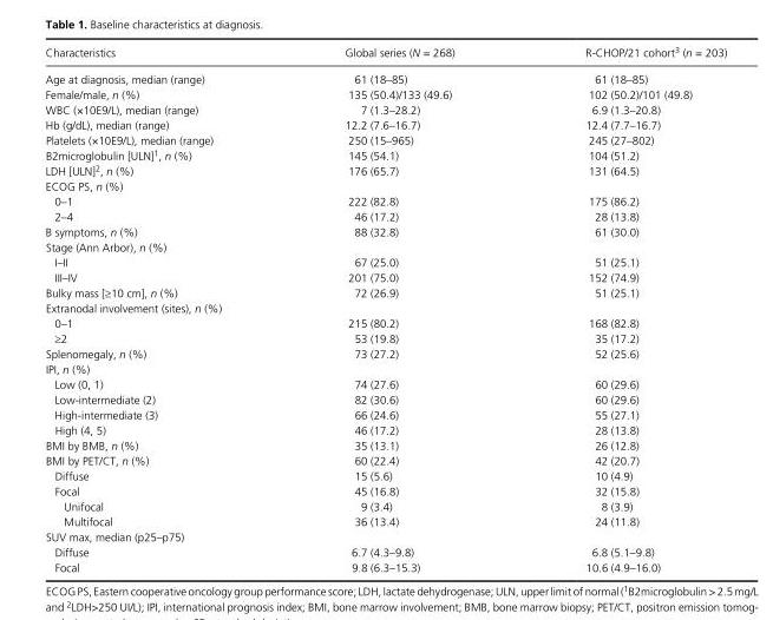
<table><thead><tr><td>Characteristics</td><td>Global series (N = 268)</td><td>R- CHOP/21 cohort<sup>3</sup> (n = 203)</td></tr></thead><tbody><tr><td>Age at diagnosis, median (range)</td><td>61 (18–85)</td><td>61 (18–85)</td></tr><tr><td>Female/male, n (%)</td><td>135 (50.4)/133 (49.6)</td><td>102 (50.2)/101 (49.8)</td></tr><tr><td>WBC (×10E9/L), median (range)</td><td>7 (1.3–28.2)</td><td>6.9 (1.3–20.8)</td></tr><tr><td>Hb (g/dL), median (range)</td><td>12.2 (7.6–16.7)</td><td>12.4 (7.7–16.7)</td></tr><tr><td>Platelets (×10E9/L), median (range)</td><td>250 (15–965)</td><td>245 (27–802)</td></tr><tr><td>B2microglobulin [ULN]<sup>1</sup>, n (%)</td><td>145 (54.1)</td><td>104 (51.2)</td></tr><tr><td>LDH [ULN]<sup>2</sup>, n (%)</td><td>176 (65.7)</td><td>131 (64.5)</td></tr><tr><td colspan="3">ECOG PS, n (%)</td></tr><tr><td>0–1</td><td>222 (82.8)</td><td>175 (86.2)</td></tr><tr><td>2–4</td><td>46 (17.2)</td><td>28 (13.8)</td></tr><tr><td>B symptoms, n (%)</td><td>88 (32.8)</td><td>61 (30.0)</td></tr><tr><td colspan="3">Stage (Ann Arbor), n (%)</td></tr><tr><td>I–II</td><td>67 (25.0)</td><td>51 (25.1)</td></tr><tr><td>III–IV</td><td>201 (75.0)</td><td>152 (74.9)</td></tr><tr><td>Bulky mass [≥10 cm], n (%)</td><td>72 (26.9)</td><td>51 (25.1)</td></tr><tr><td colspan="3">Extranodal involvement (sites), n (%)</td></tr><tr><td>0–1</td><td>215 (80.2)</td><td>168 (82.8)</td></tr><tr><td>≥2</td><td>53 (19.8)</td><td>35 (17.2)</td></tr><tr><td>Splenomegaly, n (%)</td><td>73 (27.2)</td><td>52 (25.6)</td></tr><tr><td colspan="3">IPI, n (%)</td></tr><tr><td>Low (0, 1)</td><td>74 (27.6)</td><td>60 (29.6)</td></tr><tr><td>Low- intermediate (2)</td><td>82 (30.6)</td><td>60 (29.6)</td></tr><tr><td>High- intermediate (3)</td><td>66 (24.6)</td><td>55 (27.1)</td></tr><tr><td>High (4, 5)</td><td>46 (17.2)</td><td>28 (13.8)</td></tr><tr><td>BMI by BMB, n (%)</td><td>35 (13.1)</td><td>26 (12.8)</td></tr><tr><td>BMI by PET/CT, n (%)</td><td>60 (22.4)</td><td>42 (20.7)</td></tr><tr><td>Diffuse</td><td>15 (5.6)</td><td>10 (4.9)</td></tr><tr><td>Focal</td><td>45 (16.8)</td><td>32 (15.8)</td></tr><tr><td>Unifocal</td><td>9 (3.4)</td><td>8 (3.9)</td></tr><tr><td>Multifocal</td><td>36 (13.4)</td><td>24 (11.8)</td></tr><tr><td colspan="3">SUV max, median (p25–p75)</td></tr><tr><td>Diffuse</td><td>6.7 (4.3–9.8)</td><td>6.8 (5.1–9.8)</td></tr><tr><td>Focal</td><td>9.8 (6.3–15.3)</td><td>10.6 (4.9–16.0)</td></tr></tbody></table>